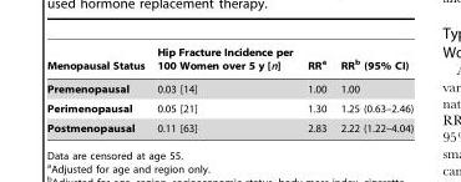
<table><thead><tr><td>Menopausal Status</td><td>Hip Fracture Incidence per 100 Women over 5 y [n]</td><td>RR<sup>a</sup></td><td>RR<sup>b</sup> (95% CI)</td></tr></thead><tbody><tr><td>Premenopausal</td><td>0.03 [14]</td><td>1.00</td><td>1.00</td></tr><tr><td>Perimenopausal</td><td>0.05 [21]</td><td>1.30</td><td>1.25 (0.63–2.46)</td></tr><tr><td>Postmenopausal</td><td>0.11 [63]</td><td>2.83</td><td>2.22 (1.22–4.04)</td></tr></tbody></table>